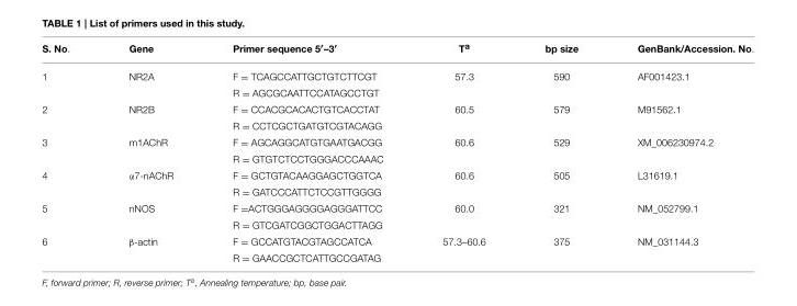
<table><thead><tr><td>S. No.</td><td>Gene</td><td>Primer sequence 5′–3′</td><td>T<sup>a</sup></td><td>bp size</td><td>GenBank/Accession. No.</td></tr></thead><tbody><tr><td rowspan="2">1</td><td>NR2A</td><td>F = TCAGCCATTGCTGTCTTCGT</td><td>57.3</td><td>590</td><td>AF001423.1</td></tr><tr><td></td><td>R = AGCGCAATTCCATAGCCTGT</td><td></td><td></td><td></td></tr><tr><td rowspan="2">2</td><td>NR2B</td><td>F = CCACGCACACTGTCACCTAT</td><td>60.5</td><td>579</td><td>M91562.1</td></tr><tr><td></td><td>R = CCTCGCTGATGTCGTACAGG</td><td></td><td></td><td></td></tr><tr><td rowspan="2">3</td><td>m1AChR</td><td>F = AGCAGGCATGTGAATGACGG</td><td>60.6</td><td>529</td><td>XM_006230974.2</td></tr><tr><td></td><td>R = GTGTCTCCTGGGACCCAAAC</td><td></td><td></td><td></td></tr><tr><td rowspan="2">4</td><td>α7-nAChR</td><td>F = GCTGTACAAGGAGCTGGTCA</td><td>60.6</td><td>505</td><td>L31619.1</td></tr><tr><td></td><td>R = GATCCCATTCTCCGTTGGGG</td><td></td><td></td><td></td></tr><tr><td rowspan="2">5</td><td>nNOS</td><td>F =ACTGGGAGGGGAGGGATTCC</td><td>60.0</td><td>321</td><td>NM_052799.1</td></tr><tr><td></td><td>R = GTCGATCGGCTGGACTTAGG</td><td></td><td></td><td></td></tr><tr><td rowspan="2">6</td><td>β-actin</td><td>F = GCCATGTACGTAGCCATCA</td><td>57.3–60.6</td><td>375</td><td>NM_031144.3</td></tr><tr><td></td><td>R = GAACCGCTCATTGCCGATAG</td><td></td><td></td><td></td></tr></tbody></table>